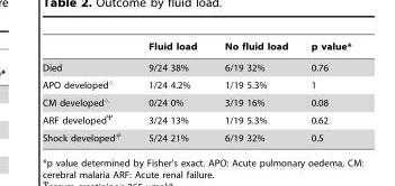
<table><thead><tr><td></td><td>Fluid load</td><td>No fluid load</td><td>p value*</td></tr></thead><tbody><tr><td>Died</td><td>9/24 38%</td><td>6/19 32%</td><td>0.76</td></tr><tr><td>APO developed‘</td><td>1/24 4.2%</td><td>1/19 5.3%</td><td>1</td></tr><tr><td>CM developed‘</td><td>0/24 0%</td><td>3/19 16%</td><td>0.08</td></tr><tr><td>ARF developedΨ</td><td>3/24 13%</td><td>1/19 5.3%</td><td>0.62</td></tr><tr><td>Shock developed#</td><td>5/24 21%</td><td>6/19 32%</td><td>0.5</td></tr></tbody></table>